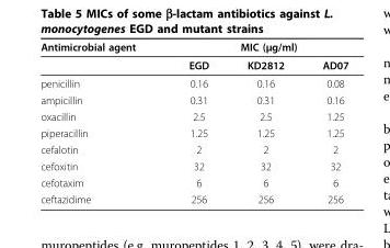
<table><thead><tr><td rowspan="2">Antimicrobial agent</td><td colspan="3">MIC (μg/ml)</td></tr><tr><td>EGD</td><td>KD2812</td><td>AD07</td></tr></thead><tbody><tr><td>penicillin</td><td>0.16</td><td>0.16</td><td>0.08</td></tr><tr><td>ampicillin</td><td>0.31</td><td>0.31</td><td>0.16</td></tr><tr><td>oxacillin</td><td>2.5</td><td>2.5</td><td>1.25</td></tr><tr><td>piperacillin</td><td>1.25</td><td>1.25</td><td>1.25</td></tr><tr><td>cefalotin</td><td>2</td><td>2</td><td>2</td></tr><tr><td>cefoxitin</td><td>32</td><td>32</td><td>32</td></tr><tr><td>cefotaxim</td><td>6</td><td>6</td><td>6</td></tr><tr><td>ceftazidime</td><td>256</td><td>256</td><td>256</td></tr></tbody></table>